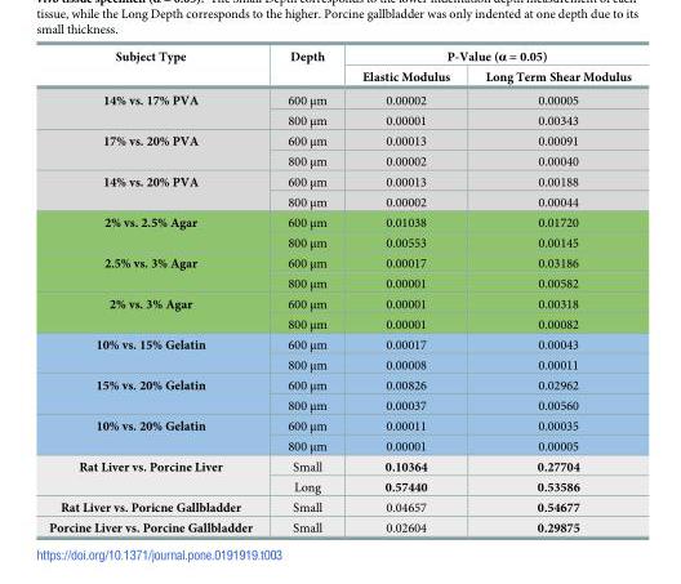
<table><thead><tr><td rowspan="2">Subject Type</td><td rowspan="2">Depth</td><td colspan="2">P-Value (α = 0.05)</td></tr><tr><td>Elastic Modulus</td><td>Long Term Shear Modulus</td></tr></thead><tbody><tr><td rowspan="2">14% vs. 17% PVA</td><td>600 μm</td><td>0.00002</td><td>0.00005</td></tr><tr><td>800 μm</td><td>0.00001</td><td>0.00343</td></tr><tr><td rowspan="2">17% vs. 20% PVA</td><td>600 μm</td><td>0.00013</td><td>0.00091</td></tr><tr><td>800 μm</td><td>0.00002</td><td>0.00040</td></tr><tr><td rowspan="2">14% vs. 20% PVA</td><td>600 μm</td><td>0.00013</td><td>0.00188</td></tr><tr><td>800 μm</td><td>0.00002</td><td>0.00044</td></tr><tr><td rowspan="2">2% vs. 2.5% Agar</td><td>600 μm</td><td>0.01038</td><td>0.01720</td></tr><tr><td>800 μm</td><td>0.00553</td><td>0.00145</td></tr><tr><td rowspan="2">2.5% vs. 3% Agar</td><td>600 μm</td><td>0.00017</td><td>0.03186</td></tr><tr><td>800 μm</td><td>0.00001</td><td>0.00582</td></tr><tr><td rowspan="2">2% vs. 3% Agar</td><td>600 μm</td><td>0.00001</td><td>0.00318</td></tr><tr><td>800 μm</td><td>0.00001</td><td>0.00082</td></tr><tr><td rowspan="2">10% vs. 15% Gelatin</td><td>600 μm</td><td>0.00017</td><td>0.00043</td></tr><tr><td>800 μm</td><td>0.00008</td><td>0.00011</td></tr><tr><td rowspan="2">15% vs. 20% Gelatin</td><td>600 μm</td><td>0.00826</td><td>0.02962</td></tr><tr><td>800 μm</td><td>0.00037</td><td>0.00560</td></tr><tr><td rowspan="2">10% vs. 20% Gelatin</td><td>600 μm</td><td>0.00011</td><td>0.00035</td></tr><tr><td>800 μm</td><td>0.00001</td><td>0.00005</td></tr><tr><td rowspan="2">Rat Liver vs. Porcine Liver</td><td>Small</td><td>0.10364</td><td>0.27704</td></tr><tr><td>Long</td><td>0.57440</td><td>0.53586</td></tr><tr><td>Rat Liver vs. Poricne Gallbladder</td><td>Small</td><td>0.04657</td><td>0.54677</td></tr><tr><td>Porcine Liver vs. Porcine Gallbladder</td><td>Small</td><td>0.02604</td><td>0.29875</td></tr></tbody></table>